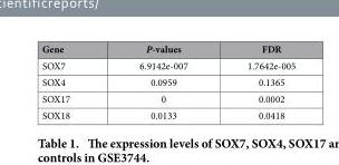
<table><thead><tr><td>Gene</td><td>P-values</td><td>FDR</td></tr></thead><tbody><tr><td>SOX7</td><td>6.9142e-007</td><td>1.7642e-005</td></tr><tr><td>SOX4</td><td>0.0959</td><td>0.1365</td></tr><tr><td>SOX17</td><td>0</td><td>0.0002</td></tr><tr><td>SOX18</td><td>0.0133</td><td>0.0418</td></tr></tbody></table>